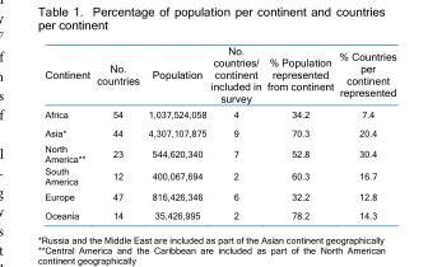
<table><thead><tr><td>Continent</td><td>No. countries</td><td>Population</td><td>No. countries/ continent included in survey</td><td>% Population represented from continent</td><td>% Countries per continent represented</td></tr></thead><tbody><tr><td>Africa</td><td>54</td><td>1,037,524,058</td><td>4</td><td>34.2</td><td>7.4</td></tr><tr><td>Asia*</td><td>44</td><td>4,307,107,875</td><td>9</td><td>70.3</td><td>20.4</td></tr><tr><td>North America**</td><td>23</td><td>544,620,340</td><td>7</td><td>52.8</td><td>30.4</td></tr><tr><td>South America</td><td>12</td><td>400,067,694</td><td>2</td><td>60.3</td><td>16.7</td></tr><tr><td>Europe</td><td>47</td><td>816,426,346</td><td>6</td><td>32.2</td><td>12.8</td></tr><tr><td>Oceania</td><td>14</td><td>35,426,995</td><td>2</td><td>78.2</td><td>14.3</td></tr></tbody></table>